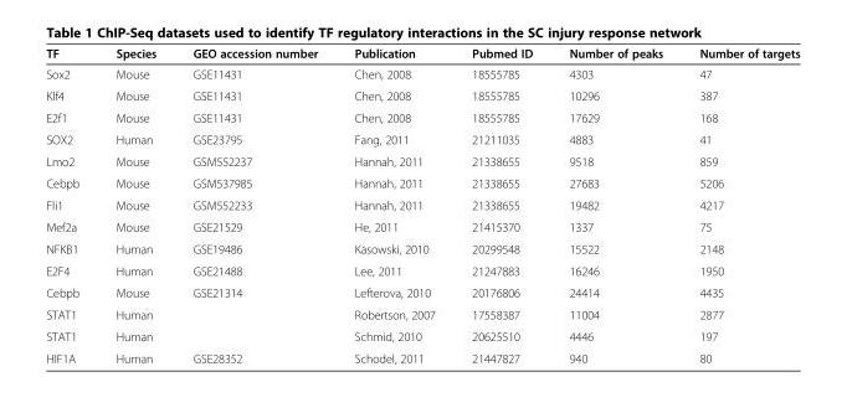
<table><thead><tr><td>TF</td><td>Species</td><td>GEO accession number</td><td>Publication</td><td>Pubmed ID</td><td>Number of peaks</td><td>Number of targets</td></tr></thead><tbody><tr><td>Sox2</td><td>Mouse</td><td>GSE11431</td><td>Chen, 2008</td><td>18555785</td><td>4303</td><td>47</td></tr><tr><td>Klf4</td><td>Mouse</td><td>GSE11431</td><td>Chen, 2008</td><td>18555785</td><td>10296</td><td>387</td></tr><tr><td>E2f1</td><td>Mouse</td><td>GSE11431</td><td>Chen, 2008</td><td>18555785</td><td>17629</td><td>168</td></tr><tr><td>SOX2</td><td>Human</td><td>GSE23795</td><td>Fang, 2011</td><td>21211035</td><td>4883</td><td>41</td></tr><tr><td>Lmo2</td><td>Mouse</td><td>GSM552237</td><td>Hannah, 2011</td><td>21338655</td><td>9518</td><td>859</td></tr><tr><td>Cebpb</td><td>Mouse</td><td>GSM537985</td><td>Hannah, 2011</td><td>21338655</td><td>27683</td><td>5206</td></tr><tr><td>Fli1</td><td>Mouse</td><td>GSM552233</td><td>Hannah, 2011</td><td>21338655</td><td>19482</td><td>4217</td></tr><tr><td>Mef2a</td><td>Mouse</td><td>GSE21529</td><td>He, 2011</td><td>21415370</td><td>1337</td><td>75</td></tr><tr><td>NFKB1</td><td>Human</td><td>GSE19486</td><td>Kasowski, 2010</td><td>20299548</td><td>15522</td><td>2148</td></tr><tr><td>E2F4</td><td>Human</td><td>GSE21488</td><td>Lee, 2011</td><td>21247883</td><td>16246</td><td>1950</td></tr><tr><td>Cebpb</td><td>Mouse</td><td>GSE21314</td><td>Lefterova, 2010</td><td>20176806</td><td>24414</td><td>4435</td></tr><tr><td>STAT1</td><td>Human</td><td></td><td>Robertson, 2007</td><td>17558387</td><td>11004</td><td>2877</td></tr><tr><td>STAT1</td><td>Human</td><td></td><td>Schmid, 2010</td><td>20625510</td><td>4446</td><td>197</td></tr><tr><td>HIF1A</td><td>Human</td><td>GSE28352</td><td>Schodel, 2011</td><td>21447827</td><td>940</td><td>80</td></tr></tbody></table>